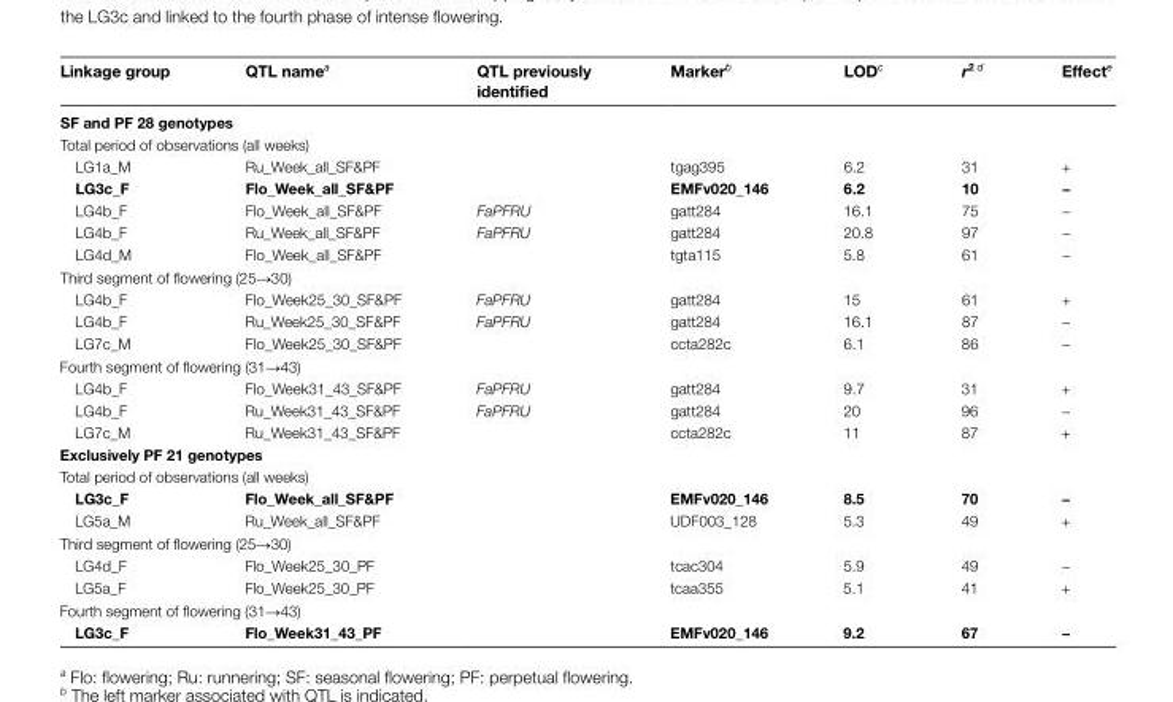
<table><thead><tr><td>Linkage group</td><td>QTL namea</td><td>QTL previously identified</td><td>Markerb</td><td>LODc</td><td>r2 d</td><td>Effecte</td></tr></thead><tbody><tr><td colspan="7">SF and PF 28 genotypes</td></tr><tr><td colspan="7">Total period of observations (all weeks)</td></tr><tr><td>LG1a_M</td><td>Ru_Week_all_SF&amp;PF</td><td></td><td>tgag395</td><td>6.2</td><td>31</td><td>+</td></tr><tr><td>LG3c_F</td><td>Flo_Week_all_SF&amp;PF</td><td></td><td>EMFv020_146</td><td>6.2</td><td>10</td><td>−</td></tr><tr><td>LG4b_F</td><td>Flo_Week_all_SF&amp;PF</td><td>FaPFRU</td><td>gatt284</td><td>16.1</td><td>75</td><td>−</td></tr><tr><td>LG4b_F</td><td>Ru_Week_all_SF&amp;PF</td><td>FaPFRU</td><td>gatt284</td><td>20.8</td><td>97</td><td>−</td></tr><tr><td>LG4d_M</td><td>Flo_Week_all_SF&amp;PF</td><td></td><td>tgta115</td><td>5.8</td><td>61</td><td>−</td></tr><tr><td colspan="7">Third segment of flowering (25→30)</td></tr><tr><td>LG4b_F</td><td>Flo_Week25_30_SF&amp;PF</td><td>FaPFRU</td><td>gatt284</td><td>15</td><td>61</td><td>+</td></tr><tr><td>LG4b_F</td><td>Ru_Week25_30_SF&amp;PF</td><td>FaPFRU</td><td>gatt284</td><td>16.1</td><td>87</td><td>−</td></tr><tr><td>LG7c_M</td><td>Flo_Week25_30_SF&amp;PF</td><td></td><td>ccta282c</td><td>6.1</td><td>86</td><td>−</td></tr><tr><td colspan="7">Fourth segment of flowering (31→43)</td></tr><tr><td>LG4b_F</td><td>Flo_Week31_43_SF&amp;PF</td><td>FaPFRU</td><td>gatt284</td><td>9.7</td><td>31</td><td>+</td></tr><tr><td>LG4b_F</td><td>Ru_Week31_43_SF&amp;PF</td><td>FaPFRU</td><td>gatt284</td><td>20</td><td>96</td><td>−</td></tr><tr><td>LG7c_M</td><td>Ru_Week31_43_SF&amp;PF</td><td></td><td>ccta282c</td><td>11</td><td>87</td><td>+</td></tr><tr><td colspan="7">Exclusively PF 21 genotypes</td></tr><tr><td colspan="7">Total period of observations (all weeks)</td></tr><tr><td>LG3c_F</td><td>Flo_Week_all_SF&amp;PF</td><td></td><td>EMFv020_146</td><td>8.5</td><td>70</td><td>−</td></tr><tr><td>LG5a_M</td><td>Ru_Week_all_SF&amp;PF</td><td></td><td>UDF003_128</td><td>5.3</td><td>49</td><td>+</td></tr><tr><td colspan="7">Third segment of flowering (25→30)</td></tr><tr><td>LG4d_F</td><td>Flo_Week25_30_PF</td><td></td><td>tcac304</td><td>5.9</td><td>49</td><td>−</td></tr><tr><td>LG5a_F</td><td>Flo_Week25_30_PF</td><td></td><td>tcaa355</td><td>5.1</td><td>41</td><td>+</td></tr><tr><td colspan="7">Fourth segment of flowering (31→43)</td></tr><tr><td>LG3c_F</td><td>Flo_Week31_43_PF</td><td></td><td>EMFv020_146</td><td>9.2</td><td>67</td><td>−</td></tr></tbody></table>